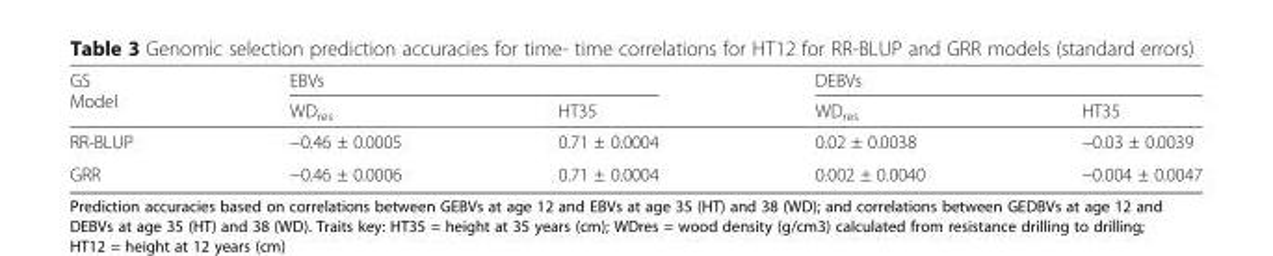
<table><thead><tr><td rowspan="2">GS Model</td><td colspan="2">EBVs</td><td colspan="2">DEBVs</td></tr><tr><td>WD<sub>res</sub></td><td>HT35</td><td>WD<sub>res</sub></td><td>HT35</td></tr></thead><tbody><tr><td>RR-BLUP</td><td>−0.46 ± 0.0005</td><td>0.71 ± 0.0004</td><td>0.02 ± 0.0038</td><td>−0.03 ± 0.0039</td></tr><tr><td>GRR</td><td>−0.46 ± 0.0006</td><td>0.71 ± 0.0004</td><td>0.002 ± 0.0040</td><td>−0.004 ± 0.0047</td></tr></tbody></table>